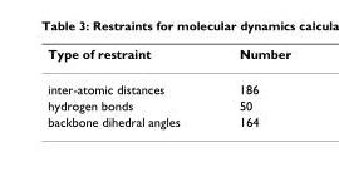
<table><thead><tr><td>Type of restraint</td><td>Number</td></tr></thead><tbody><tr><td>inter-atomic distances</td><td>186</td></tr><tr><td>hydrogen bonds</td><td>50</td></tr><tr><td>backbone dihedral angles</td><td>164</td></tr></tbody></table>